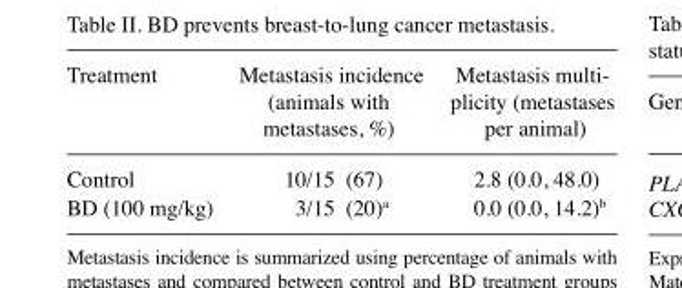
<table><thead><tr><td>Treatment</td><td>Metastasis incidence (animals with metastases, %)</td><td>Metastasis multi- plicity (metastases per animal)</td></tr></thead><tbody><tr><td>Control</td><td>10/15 (67)</td><td>2.8 (0.0, 48.0)</td></tr><tr><td>BD (100 mg/kg)</td><td>3/15 (20)<sup>a</sup></td><td>0.0 (0.0, 14.2)<sup>b</sup></td></tr></tbody></table>